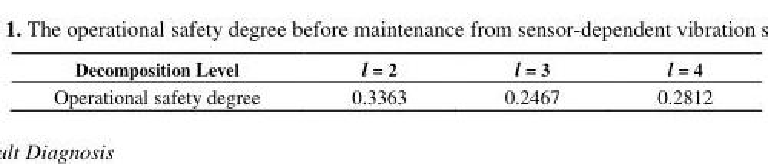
<table><thead><tr><td>Decomposition Level</td><td>l = 2</td><td>l = 3</td><td>l = 4</td></tr></thead><tbody><tr><td>Operational safety degree</td><td>0.3363</td><td>0.2467</td><td>0.2812</td></tr></tbody></table>